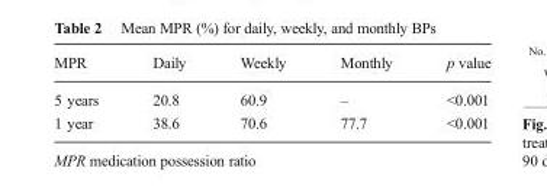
<table><thead><tr><td>MPR</td><td>Daily</td><td>Weekly</td><td>Monthly</td><td>p value</td></tr></thead><tbody><tr><td>5 years</td><td>20.8</td><td>60.9</td><td>–</td><td>&lt;0.001</td></tr><tr><td>1 year</td><td>38.6</td><td>70.6</td><td>77.7</td><td>&lt;0.001</td></tr></tbody></table>